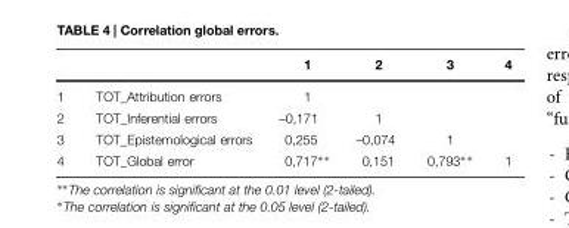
<table><thead><tr><td></td><td></td><td>1</td><td>2</td><td>3</td><td>4</td></tr></thead><tbody><tr><td>1</td><td>TOT_Attribution errors</td><td>1</td><td></td><td></td><td></td></tr><tr><td>2</td><td>TOT_Inferential errors</td><td>–0,171</td><td>1</td><td></td><td></td></tr><tr><td>3</td><td>TOT_Epistemological errors</td><td>0,255</td><td>–0,074</td><td>1</td><td></td></tr><tr><td>4</td><td>TOT_Global error</td><td>0,717∗∗</td><td>0,151</td><td>0,793∗ ∗</td><td>1</td></tr></tbody></table>